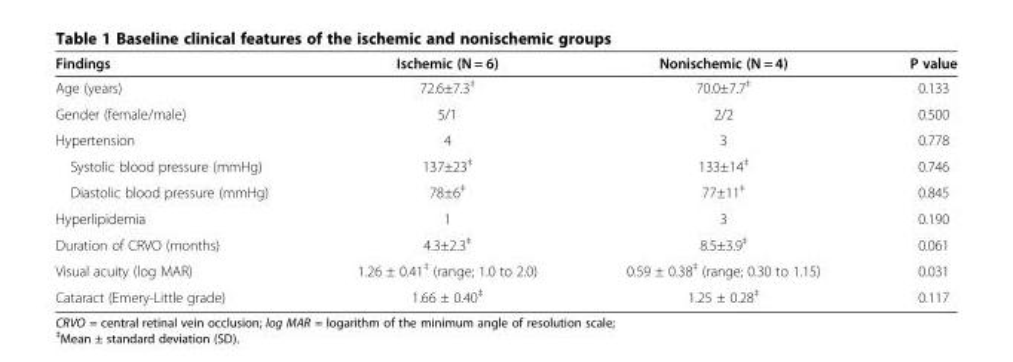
<table><thead><tr><td>Findings</td><td>Ischemic (N = 6)</td><td>Nonischemic (N = 4)</td><td>P value</td></tr></thead><tbody><tr><td>Age (years)</td><td>72.6±7.3<sup>‡</sup></td><td>70.0±7.7<sup>‡</sup></td><td>0.133</td></tr><tr><td>Gender (female/male)</td><td>5/1</td><td>2/2</td><td>0.500</td></tr><tr><td>Hypertension</td><td>4</td><td>3</td><td>0.778</td></tr><tr><td>Systolic blood pressure (mmHg)</td><td>137±23<sup>‡</sup></td><td>133±14<sup>‡</sup></td><td>0.746</td></tr><tr><td>Diastolic blood pressure (mmHg)</td><td>78±6<sup>‡</sup></td><td>77±11<sup>‡</sup></td><td>0.845</td></tr><tr><td>Hyperlipidemia</td><td>1</td><td>3</td><td>0.190</td></tr><tr><td>Duration of CRVO (months)</td><td>4.3±2.3<sup>‡</sup></td><td>8.5±3.9<sup>‡</sup></td><td>0.061</td></tr><tr><td>Visual acuity (log MAR)</td><td>1.26 ± 0.41<sup>‡</sup> (range; 1.0 to 2.0)</td><td>0.59 ± 0.38<sup>‡</sup> (range; 0.30 to 1.15)</td><td>0.031</td></tr><tr><td>Cataract (Emery-Little grade)</td><td>1.66 ± 0.40<sup>‡</sup></td><td>1.25 ± 0.28<sup>‡</sup></td><td>0.117</td></tr></tbody></table>